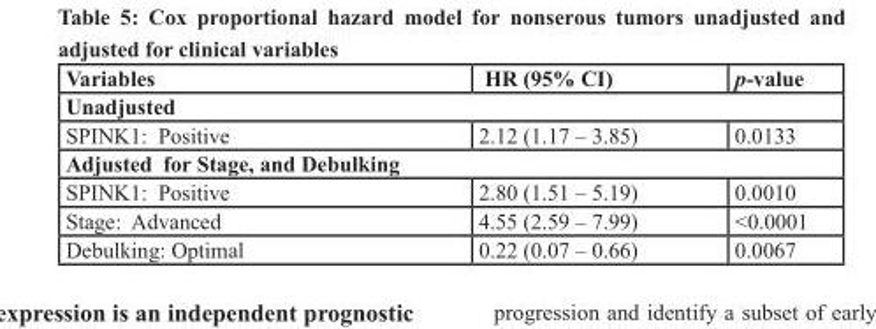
<table><thead><tr><td>Variables</td><td>HR (95% CI)</td><td>p-value</td></tr></thead><tbody><tr><td colspan="3">Unadjusted</td></tr><tr><td>SPINK1: Positive</td><td>2.12 (1.17 – 3.85)</td><td>0.0133</td></tr><tr><td colspan="3">Adjusted for Stage, and Debulking</td></tr><tr><td>SPINK1: Positive</td><td>2.80 (1.51 – 5.19)</td><td>0.0010</td></tr><tr><td>Stage: Advanced</td><td>4.55 (2.59 – 7.99)</td><td>&lt;0.0001</td></tr><tr><td>Debulking: Optimal</td><td>0.22 (0.07 – 0.66)</td><td>0.0067</td></tr></tbody></table>